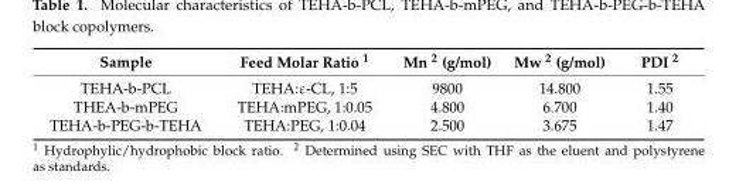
<table><thead><tr><td>Sample</td><td>Feed Molar Ratio 1</td><td>Mn 2 (g/mol)</td><td>Mw 2 (g/mol)</td><td>PDI 2</td></tr></thead><tbody><tr><td>TEHA-b-PCL</td><td>TEHA:ε-CL, 1:5</td><td>9800</td><td>14.800</td><td>1.55</td></tr><tr><td>THEA-b-mPEG</td><td>TEHA:mPEG, 1:0.05</td><td>4.800</td><td>6.700</td><td>1.40</td></tr><tr><td>TEHA-b-PEG-b-TEHA</td><td>TEHA:PEG, 1:0.04</td><td>2.500</td><td>3.675</td><td>1.47</td></tr></tbody></table>